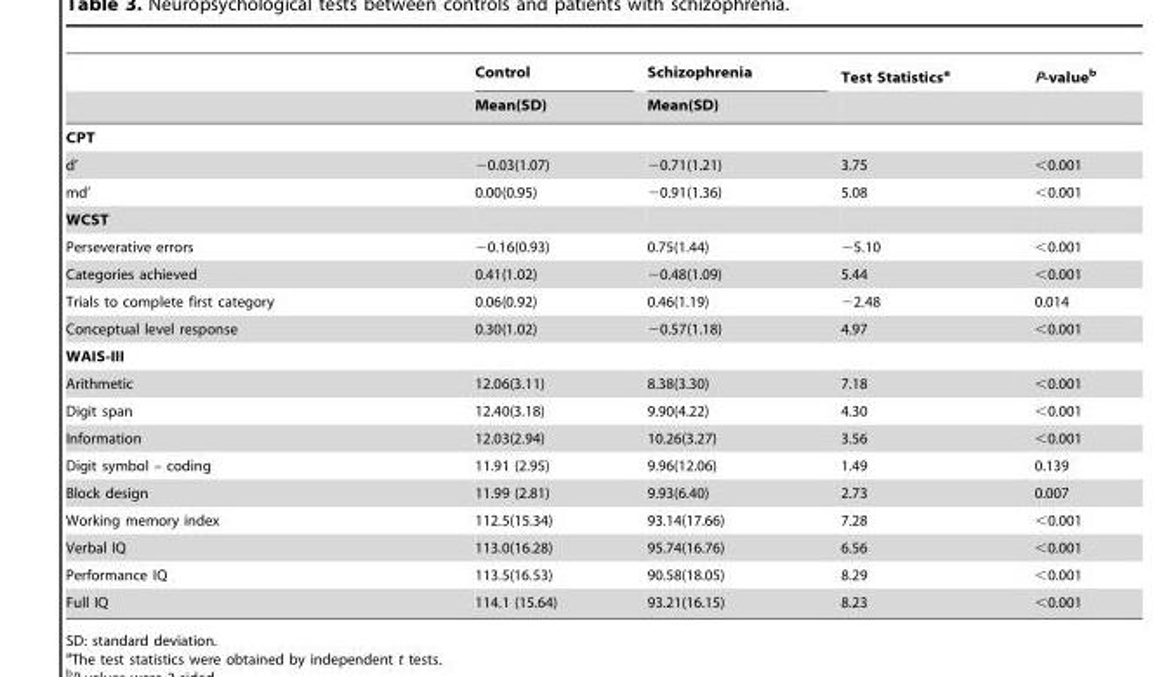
<table><thead><tr><td rowspan="2"></td><td rowspan="2">Control Mean(SD)</td><td rowspan="2">Schizophrenia Mean(SD)</td><td rowspan="2">Test Statistics<sup>a</sup></td><td rowspan="2">P-value<sup>b</sup></td></tr><tr></tr></thead><tbody><tr><td colspan="5">CPT</td></tr><tr><td>d’</td><td>−0.03(1.07)</td><td>−0.71(1.21)</td><td>3.75</td><td>&lt;0.001</td></tr><tr><td>md’</td><td>0.00(0.95)</td><td>−0.91(1.36)</td><td>5.08</td><td>&lt;0.001</td></tr><tr><td colspan="5">WCST</td></tr><tr><td>Perseverative errors</td><td>−0.16(0.93)</td><td>0.75(1.44)</td><td>−5.10</td><td>&lt;0.001</td></tr><tr><td>Categories achieved</td><td>0.41(1.02)</td><td>−0.48(1.09)</td><td>5.44</td><td>&lt;0.001</td></tr><tr><td>Trials to complete first category</td><td>0.06(0.92)</td><td>0.46(1.19)</td><td>−2.48</td><td>0.014</td></tr><tr><td>Conceptual level response</td><td>0.30(1.02)</td><td>−0.57(1.18)</td><td>4.97</td><td>&lt;0.001</td></tr><tr><td colspan="5">WAIS-III</td></tr><tr><td>Arithmetic</td><td>12.06(3.11)</td><td>8.38(3.30)</td><td>7.18</td><td>&lt;0.001</td></tr><tr><td>Digit span</td><td>12.40(3.18)</td><td>9.90(4.22)</td><td>4.30</td><td>&lt;0.001</td></tr><tr><td>Information</td><td>12.03(2.94)</td><td>10.26(3.27)</td><td>3.56</td><td>&lt;0.001</td></tr><tr><td>Digit symbol – coding</td><td>11.91 (2.95)</td><td>9.96(12.06)</td><td>1.49</td><td>0.139</td></tr><tr><td>Block design</td><td>11.99 (2.81)</td><td>9.93(6.40)</td><td>2.73</td><td>0.007</td></tr><tr><td>Working memory index</td><td>112.5(15.34)</td><td>93.14(17.66)</td><td>7.28</td><td>&lt;0.001</td></tr><tr><td>Verbal IQ</td><td>113.0(16.28)</td><td>95.74(16.76)</td><td>6.56</td><td>&lt;0.001</td></tr><tr><td>Performance IQ</td><td>113.5(16.53)</td><td>90.58(18.05)</td><td>8.29</td><td>&lt;0.001</td></tr><tr><td>Full IQ</td><td>114.1 (15.64)</td><td>93.21(16.15)</td><td>8.23</td><td>&lt;0.001</td></tr></tbody></table>